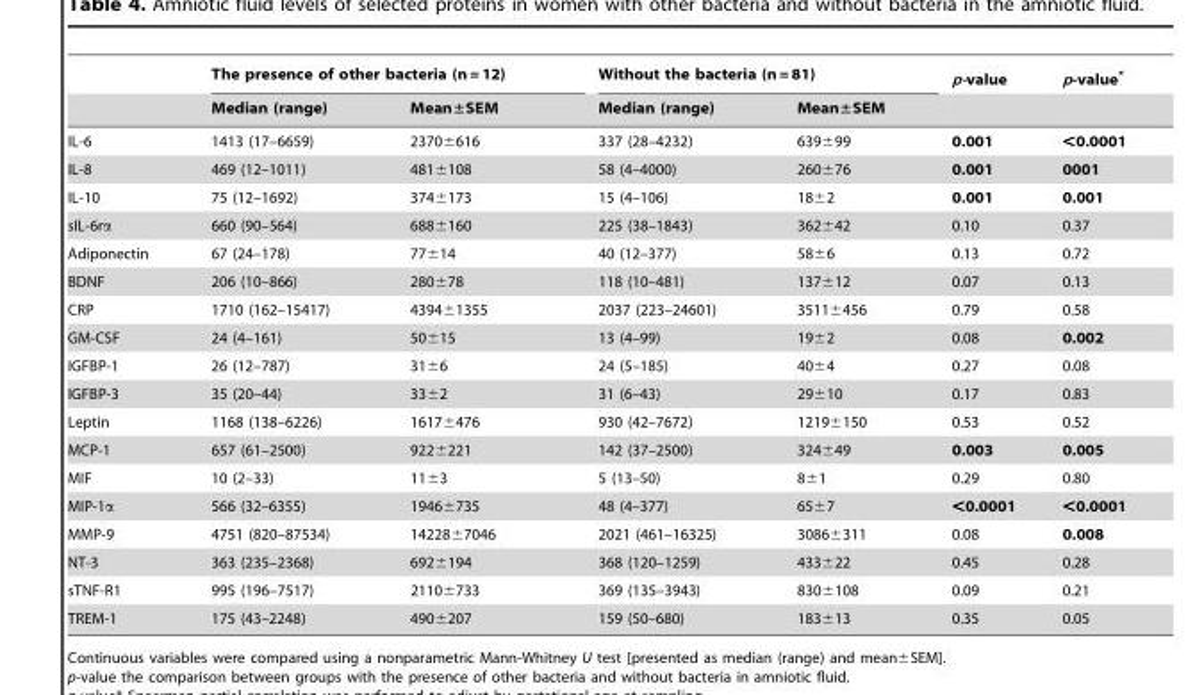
<table><thead><tr><td rowspan="2"></td><td colspan="2">The presence of other bacteria (n = 12)</td><td colspan="2">Without the bacteria (n = 81)</td><td rowspan="2">p-value</td><td rowspan="2">p-value*</td></tr><tr><td>Median (range)</td><td>Mean±SEM</td><td>Median (range)</td><td>Mean±SEM</td></tr></thead><tbody><tr><td>IL-6</td><td>1413 (17–6659)</td><td>2370±616</td><td>337 (28–4232)</td><td>639±99</td><td>0.001</td><td>&lt;0.0001</td></tr><tr><td>IL-8</td><td>469 (12–1011)</td><td>481±108</td><td>58 (4–4000)</td><td>260±76</td><td>0.001</td><td>0001</td></tr><tr><td>IL-10</td><td>75 (12–1692)</td><td>374±173</td><td>15 (4–106)</td><td>18±2</td><td>0.001</td><td>0.001</td></tr><tr><td>sIL-6rα</td><td>660 (90–564)</td><td>688±160</td><td>225 (38–1843)</td><td>362±42</td><td>0.10</td><td>0.37</td></tr><tr><td>Adiponectin</td><td>67 (24–178)</td><td>77±14</td><td>40 (12–377)</td><td>58±6</td><td>0.13</td><td>0.72</td></tr><tr><td>BDNF</td><td>206 (10–866)</td><td>280±78</td><td>118 (10–481)</td><td>137±12</td><td>0.07</td><td>0.13</td></tr><tr><td>CRP</td><td>1710 (162–15417)</td><td>4394±1355</td><td>2037 (223–24601)</td><td>3511±456</td><td>0.79</td><td>0.58</td></tr><tr><td>GM-CSF</td><td>24 (4–161)</td><td>50±15</td><td>13 (4–99)</td><td>19±2</td><td>0.08</td><td>0.002</td></tr><tr><td>IGFBP-1</td><td>26 (12–787)</td><td>31±6</td><td>24 (5–185)</td><td>40±4</td><td>0.27</td><td>0.08</td></tr><tr><td>IGFBP-3</td><td>35 (20–44)</td><td>33±2</td><td>31 (6–43)</td><td>29±10</td><td>0.17</td><td>0.83</td></tr><tr><td>Leptin</td><td>1168 (138–6226)</td><td>1617±476</td><td>930 (42–7672)</td><td>1219±150</td><td>0.53</td><td>0.52</td></tr><tr><td>MCP-1</td><td>657 (61–2500)</td><td>922±221</td><td>142 (37–2500)</td><td>324±49</td><td>0.003</td><td>0.005</td></tr><tr><td>MIF</td><td>10 (2–33)</td><td>11±3</td><td>5 (13–50)</td><td>8±1</td><td>0.29</td><td>0.80</td></tr><tr><td>MIP-1α</td><td>566 (32–6355)</td><td>1946±735</td><td>48 (4–377)</td><td>65±7</td><td>&lt;0.0001</td><td>&lt;0.0001</td></tr><tr><td>MMP-9</td><td>4751 (820–87534)</td><td>14228±7046</td><td>2021 (461–16325)</td><td>3086±311</td><td>0.08</td><td>0.008</td></tr><tr><td>NT-3</td><td>363 (235–2368)</td><td>692±194</td><td>368 (120–1259)</td><td>433±22</td><td>0.45</td><td>0.28</td></tr><tr><td>sTNF-R1</td><td>995 (196–7517)</td><td>2110±733</td><td>369 (135–3943)</td><td>830±108</td><td>0.09</td><td>0.21</td></tr><tr><td>TREM-1</td><td>175 (43–2248)</td><td>490±207</td><td>159 (50–680)</td><td>183±13</td><td>0.35</td><td>0.05</td></tr></tbody></table>